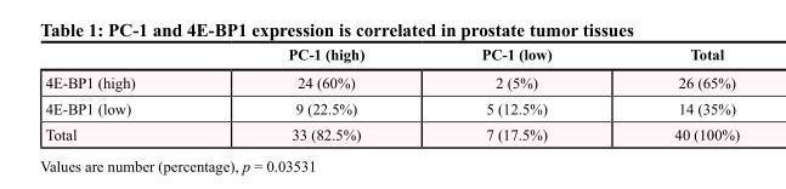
<table><thead><tr><td></td><td>PC-1 (high)</td><td>PC-1 (low)</td><td>Total</td></tr></thead><tbody><tr><td>4E-BP1 (high)</td><td>24 (60%)</td><td>2 (5%)</td><td>26 (65%)</td></tr><tr><td>4E-BP1 (low)</td><td>9 (22.5%)</td><td>5 (12.5%)</td><td>14 (35%)</td></tr><tr><td>Total</td><td>33 (82.5%)</td><td>7 (17.5%)</td><td>40 (100%)</td></tr></tbody></table>